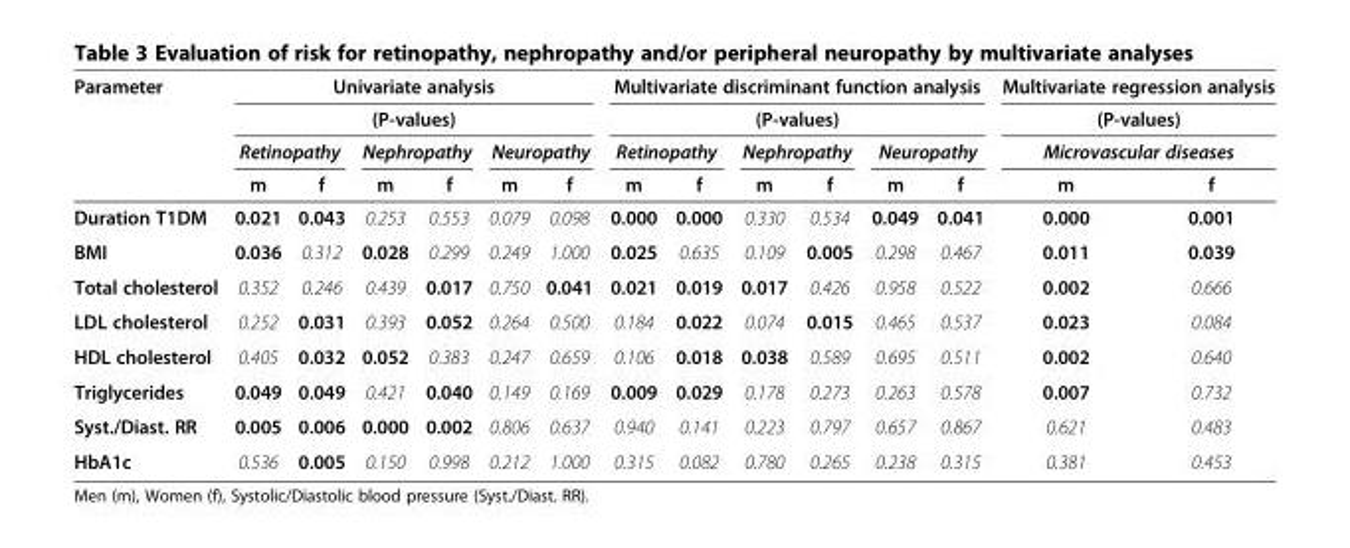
<table><thead><tr><td rowspan="4">Parameter</td><td rowspan="2" colspan="6">Univariate analysis (P-values)</td><td rowspan="2" colspan="6">Multivariate discriminant function analysis (P-values)</td><td rowspan="3" colspan="2">Multivariate regression analysis (P-values) Microvascular diseases</td></tr><tr></tr><tr><td colspan="2">Retinopathy</td><td colspan="2">Nephropathy</td><td colspan="2">Neuropathy</td><td colspan="2">Retinopathy</td><td colspan="2">Nephropathy</td><td colspan="2">Neuropathy</td></tr><tr><td>m</td><td>f</td><td>m</td><td>f</td><td>m</td><td>f</td><td>m</td><td>f</td><td>m</td><td>f</td><td>m</td><td>f</td><td>m</td><td>f</td></tr></thead><tbody><tr><td>Duration T1DM</td><td>0.021</td><td>0.043</td><td>0.253</td><td>0.553</td><td>0.079</td><td>0.098</td><td>0.000</td><td>0.000</td><td>0.330</td><td>0.534</td><td>0.049</td><td>0.041</td><td>0.000</td><td>0.001</td></tr><tr><td>BMI</td><td>0.036</td><td>0.312</td><td>0.028</td><td>0.299</td><td>0.249</td><td>1.000</td><td>0.025</td><td>0.635</td><td>0.109</td><td>0.005</td><td>0.298</td><td>0.467</td><td>0.011</td><td>0.039</td></tr><tr><td>Total cholesterol</td><td>0.352</td><td>0.246</td><td>0.439</td><td>0.017</td><td>0.750</td><td>0.041</td><td>0.021</td><td>0.019</td><td>0.017</td><td>0.426</td><td>0.958</td><td>0.522</td><td>0.002</td><td>0.666</td></tr><tr><td>LDL cholesterol</td><td>0.252</td><td>0.031</td><td>0.393</td><td>0.052</td><td>0.264</td><td>0.500</td><td>0.184</td><td>0.022</td><td>0.074</td><td>0.015</td><td>0.465</td><td>0.537</td><td>0.023</td><td>0.084</td></tr><tr><td>HDL cholesterol</td><td>0.405</td><td>0.032</td><td>0.052</td><td>0.383</td><td>0.247</td><td>0.659</td><td>0.106</td><td>0.018</td><td>0.038</td><td>0.589</td><td>0.695</td><td>0.511</td><td>0.002</td><td>0.640</td></tr><tr><td>Triglycerides</td><td>0.049</td><td>0.049</td><td>0.421</td><td>0.040</td><td>0.149</td><td>0.169</td><td>0.009</td><td>0.029</td><td>0.178</td><td>0.273</td><td>0.263</td><td>0.578</td><td>0.007</td><td>0.732</td></tr><tr><td>Syst./Diast. RR</td><td>0.005</td><td>0.006</td><td>0.000</td><td>0.002</td><td>0.806</td><td>0.637</td><td>0.940</td><td>0.141</td><td>0.223</td><td>0.797</td><td>0.657</td><td>0.867</td><td>0.621</td><td>0.483</td></tr><tr><td>HbA1c</td><td>0.536</td><td>0.005</td><td>0.150</td><td>0.998</td><td>0.212</td><td>1.000</td><td>0.315</td><td>0.082</td><td>0.780</td><td>0.265</td><td>0.238</td><td>0.315</td><td>0.381</td><td>0.453</td></tr></tbody></table>